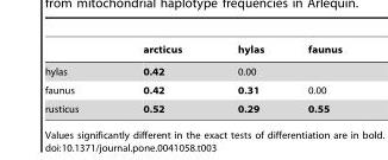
<table><thead><tr><td></td><td>arcticus</td><td>hylas</td><td>faunus</td></tr></thead><tbody><tr><td>hylas</td><td>0.42</td><td>0.00</td><td></td></tr><tr><td>faunus</td><td>0.42</td><td>0.31</td><td>0.00</td></tr><tr><td>rusticus</td><td>0.52</td><td>0.29</td><td>0.55</td></tr></tbody></table>